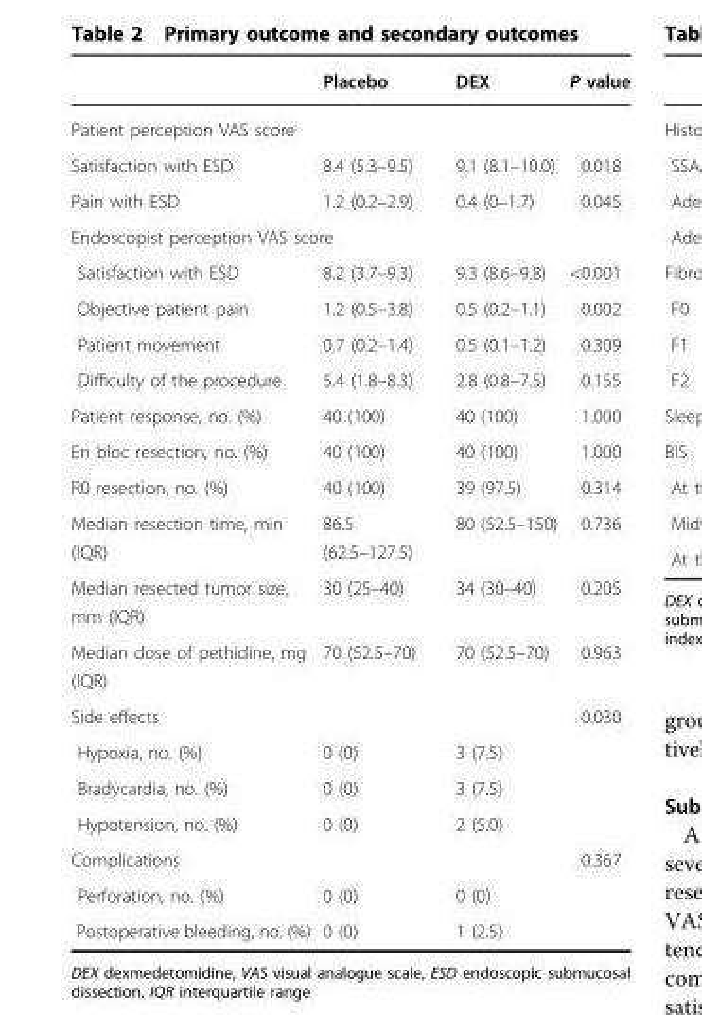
<table><thead><tr><td></td><td>Placebo</td><td>DEX</td><td>P value</td></tr></thead><tbody><tr><td colspan="4">Patient perception VAS score</td></tr><tr><td>Satisfaction with ESD</td><td>8.4 (5.3–9.5)</td><td>9.1 (8.1–10.0)</td><td>0.018</td></tr><tr><td>Pain with ESD</td><td>1.2 (0.2–2.9)</td><td>0.4 (0–1.7)</td><td>0.045</td></tr><tr><td colspan="4">Endoscopist perception VAS score</td></tr><tr><td>Satisfaction with ESD</td><td>8.2 (3.7–9.3)</td><td>9.3 (8.6–9.8)</td><td>&lt;0.001</td></tr><tr><td>Objective patient pain</td><td>1.2 (0.5–3.8)</td><td>0.5 (0.2–1.1)</td><td>0.002</td></tr><tr><td>Patient movement</td><td>0.7 (0.2–1.4)</td><td>0.5 (0.1–1.2)</td><td>0.309</td></tr><tr><td>Difficulty of the procedure</td><td>5.4 (1.8–8.3)</td><td>2.8 (0.8–7.5)</td><td>0.155</td></tr><tr><td>Patient response, no. (%)</td><td>40 (100)</td><td>40 (100)</td><td>1.000</td></tr><tr><td>En bloc resection, no. (%)</td><td>40 (100)</td><td>40 (100)</td><td>1.000</td></tr><tr><td>R0 resection, no. (%)</td><td>40 (100)</td><td>39 (97.5)</td><td>0.314</td></tr><tr><td>Median resection time, min (IQR)</td><td>86.5 (62.5–127.5)</td><td>80 (52.5–150)</td><td>0.736</td></tr><tr><td>Median resected tumor size, mm (IQR)</td><td>30 (25–40)</td><td>34 (30–40)</td><td>0.205</td></tr><tr><td>Median dose of pethidine, mg (IQR)</td><td>70 (52.5–70)</td><td>70 (52.5–70)</td><td>0.963</td></tr><tr><td>Side effects</td><td></td><td></td><td>0.030</td></tr><tr><td>Hypoxia, no. (%)</td><td>0 (0)</td><td>3 (7.5)</td><td></td></tr><tr><td>Bradycardia, no. (%)</td><td>0 (0)</td><td>3 (7.5)</td><td></td></tr><tr><td>Hypotension, no. (%)</td><td>0 (0)</td><td>2 (5.0)</td><td></td></tr><tr><td>Complications</td><td></td><td></td><td>0.367</td></tr><tr><td>Perforation, no. (%)</td><td>0 (0)</td><td>0 (0)</td><td></td></tr><tr><td>Postoperative bleeding, no. (%)</td><td>0 (0)</td><td>1 (2.5)</td><td></td></tr></tbody></table>